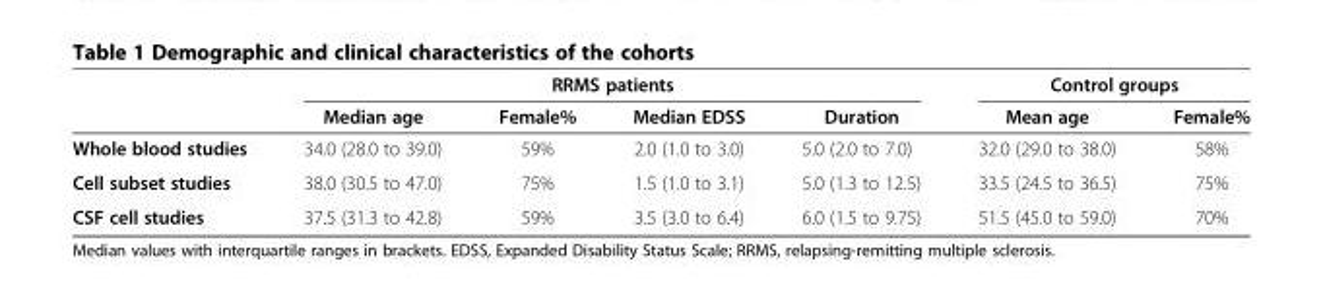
<table><thead><tr><td rowspan="2"></td><td colspan="4">RRMS patients</td><td colspan="2">Control groups</td></tr><tr><td>Median age</td><td>Female%</td><td>Median EDSS</td><td>Duration</td><td>Mean age</td><td>Female%</td></tr></thead><tbody><tr><td>Whole blood studies</td><td>34.0 (28.0 to 39.0)</td><td>59%</td><td>2.0 (1.0 to 3.0)</td><td>5.0 (2.0 to 7.0)</td><td>32.0 (29.0 to 38.0)</td><td>58%</td></tr><tr><td>Cell subset studies</td><td>38.0 (30.5 to 47.0)</td><td>75%</td><td>1.5 (1.0 to 3.1)</td><td>5.0 (1.3 to 12.5)</td><td>33.5 (24.5 to 36.5)</td><td>75%</td></tr><tr><td>CSF cell studies</td><td>37.5 (31.3 to 42.8)</td><td>59%</td><td>3.5 (3.0 to 6.4)</td><td>6.0 (1.5 to 9.75)</td><td>51.5 (45.0 to 59.0)</td><td>70%</td></tr></tbody></table>